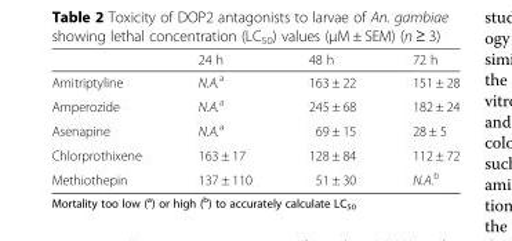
<table><thead><tr><td></td><td>24 h</td><td>48 h</td><td>72 h</td></tr></thead><tbody><tr><td>Amitriptyline</td><td>N.A.<sup>a</sup></td><td>163 ± 22</td><td>151 ± 28</td></tr><tr><td>Amperozide</td><td>N.A.<sup>a</sup></td><td>245 ± 68</td><td>182 ± 24</td></tr><tr><td>Asenapine</td><td>N.A.<sup>a</sup></td><td>69 ± 15</td><td>28 ± 5</td></tr><tr><td>Chlorprothixene</td><td>163 ± 17</td><td>128 ± 84</td><td>112 ± 72</td></tr><tr><td>Methiothepin</td><td>137 ± 110</td><td>51 ± 30</td><td>N.A.<sup>b</sup></td></tr></tbody></table>